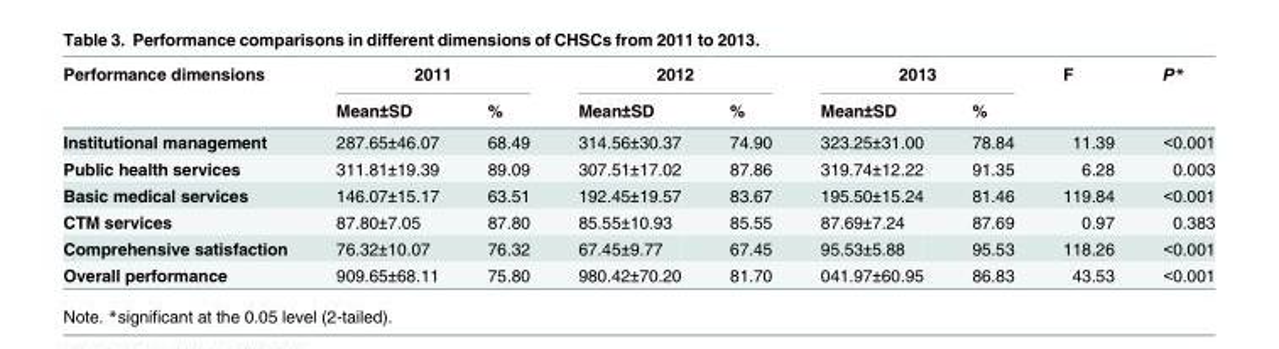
<table><thead><tr><td rowspan="2">Performance dimensions</td><td colspan="2">2011</td><td colspan="2">2012</td><td colspan="2">2013</td><td rowspan="2">F</td><td rowspan="2">P*</td></tr><tr><td>Mean±SD</td><td>%</td><td>Mean±SD</td><td>%</td><td>Mean±SD</td><td>%</td></tr></thead><tbody><tr><td>Institutional management</td><td>287.65±46.07</td><td>68.49</td><td>314.56±30.37</td><td>74.90</td><td>323.25±31.00</td><td>78.84</td><td>11.39</td><td>&lt;0.001</td></tr><tr><td>Public health services</td><td>311.81±19.39</td><td>89.09</td><td>307.51±17.02</td><td>87.86</td><td>319.74±12.22</td><td>91.35</td><td>6.28</td><td>0.003</td></tr><tr><td>Basic medical services</td><td>146.07±15.17</td><td>63.51</td><td>192.45±19.57</td><td>83.67</td><td>195.50±15.24</td><td>81.46</td><td>119.84</td><td>&lt;0.001</td></tr><tr><td>CTM services</td><td>87.80±7.05</td><td>87.80</td><td>85.55±10.93</td><td>85.55</td><td>87.69±7.24</td><td>87.69</td><td>0.97</td><td>0.383</td></tr><tr><td>Comprehensive satisfaction</td><td>76.32±10.07</td><td>76.32</td><td>67.45±9.77</td><td>67.45</td><td>95.53±5.88</td><td>95.53</td><td>118.26</td><td>&lt;0.001</td></tr><tr><td>Overall performance</td><td>909.65±68.11</td><td>75.80</td><td>980.42±70.20</td><td>81.70</td><td>041.97±60.95</td><td>86.83</td><td>43.53</td><td>&lt;0.001</td></tr></tbody></table>